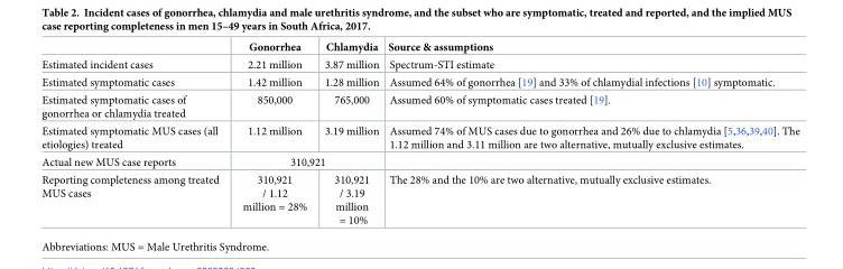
<table><thead><tr><td></td><td>Gonorrhea</td><td>Chlamydia</td><td>Source &amp; assumptions</td></tr></thead><tbody><tr><td>Estimated incident cases</td><td>2.21 million</td><td>3.87 million</td><td>Spectrum-STI estimate</td></tr><tr><td>Estimated symptomatic cases</td><td>1.42 million</td><td>1.28 million</td><td>Assumed 64% of gonorrhea [19] and 33% of chlamydial infections [10] symptomatic.</td></tr><tr><td>Estimated symptomatic cases of gonorrhea or chlamydia treated</td><td>850,000</td><td>765,000</td><td>Assumed 60% of symptomatic cases treated [19].</td></tr><tr><td>Estimated symptomatic MUS cases (all etiologies) treated</td><td>1.12 million</td><td>3.19 million</td><td>Assumed 74% of MUS cases due to gonorrhea and 26% due to chlamydia [5,36,39,40]. The 1.12 million and 3.11 million are two alternative, mutually exclusive estimates.</td></tr><tr><td>Actual new MUS case reports</td><td colspan="2">310,921</td><td></td></tr><tr><td>Reporting completeness among treated MUS cases</td><td>310,921 / 1.12 million = 28%</td><td>310,921 / 3.19 million = 10%</td><td>The 28% and the 10% are two alternative, mutually exclusive estimates.</td></tr></tbody></table>